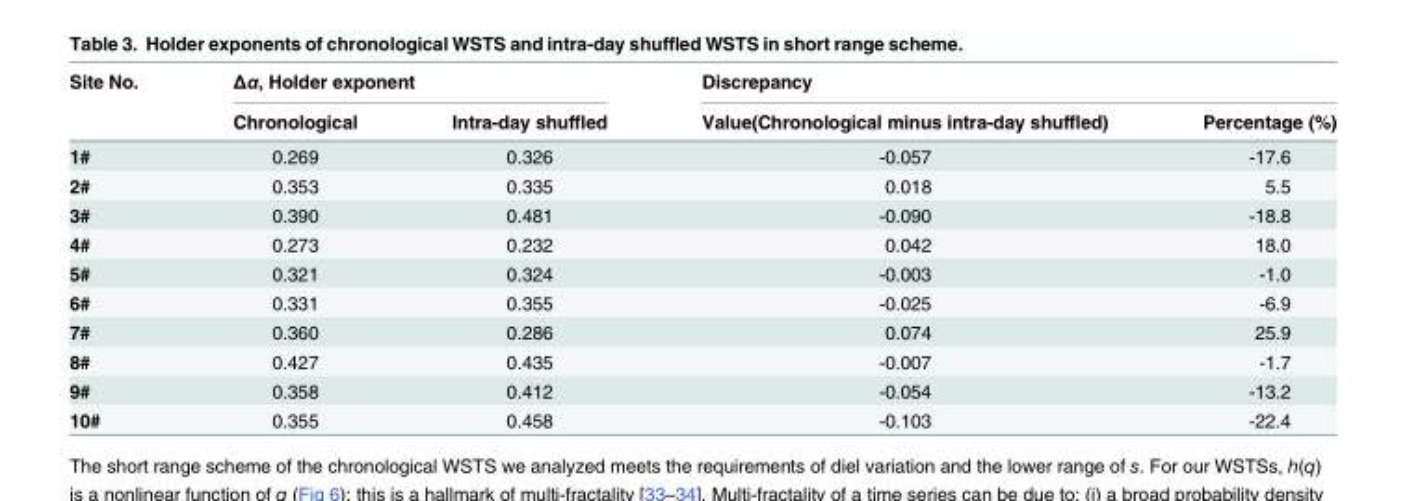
<table><thead><tr><td rowspan="2">Site No.</td><td colspan="2">Δα, Holder exponent</td><td colspan="2">Discrepancy</td></tr><tr><td>Chronological</td><td>Intra-day shuffled</td><td>Value(Chronological minus intra-day shuffled)</td><td>Percentage (%)</td></tr></thead><tbody><tr><td>1#</td><td>0.269</td><td>0.326</td><td>-0.057</td><td>-17.6</td></tr><tr><td>2#</td><td>0.353</td><td>0.335</td><td>0.018</td><td>5.5</td></tr><tr><td>3#</td><td>0.390</td><td>0.481</td><td>-0.090</td><td>-18.8</td></tr><tr><td>4#</td><td>0.273</td><td>0.232</td><td>0.042</td><td>18.0</td></tr><tr><td>5#</td><td>0.321</td><td>0.324</td><td>-0.003</td><td>-1.0</td></tr><tr><td>6#</td><td>0.331</td><td>0.355</td><td>-0.025</td><td>-6.9</td></tr><tr><td>7#</td><td>0.360</td><td>0.286</td><td>0.074</td><td>25.9</td></tr><tr><td>8#</td><td>0.427</td><td>0.435</td><td>-0.007</td><td>-1.7</td></tr><tr><td>9#</td><td>0.358</td><td>0.412</td><td>-0.054</td><td>-13.2</td></tr><tr><td>10#</td><td>0.355</td><td>0.458</td><td>-0.103</td><td>-22.4</td></tr></tbody></table>